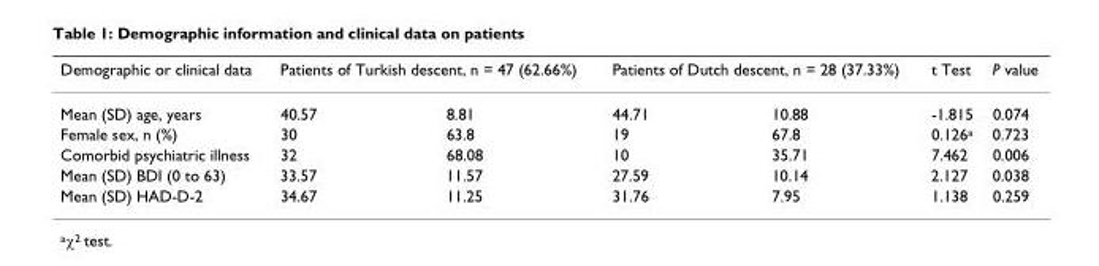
<table><thead><tr><td rowspan="2">Demographic or clinical data Mean (SD) age, years</td><td colspan="2">Patients of Turkish descent, n = 47 (62.66%)</td><td colspan="2">Patients of Dutch descent, n = 28 (37.33%)</td><td rowspan="2">t Test -1.815</td><td rowspan="2">P value 0.074</td></tr><tr><td>40.57</td><td>8.81</td><td>44.71</td><td>10.88</td></tr></thead><tbody><tr><td>Female sex, n (%)</td><td>30</td><td>63.8</td><td>19</td><td>67.8</td><td>0.126<sup>a</sup></td><td>0.723</td></tr><tr><td>Comorbid psychiatric illness</td><td>32</td><td>68.08</td><td>10</td><td>35.71</td><td>7.462</td><td>0.006</td></tr><tr><td>Mean (SD) BDI (0 to 63)</td><td>33.57</td><td>11.57</td><td>27.59</td><td>10.14</td><td>2.127</td><td>0.038</td></tr><tr><td>Mean (SD) HAD-D-2</td><td>34.67</td><td>11.25</td><td>31.76</td><td>7.95</td><td>1.138</td><td>0.259</td></tr></tbody></table>